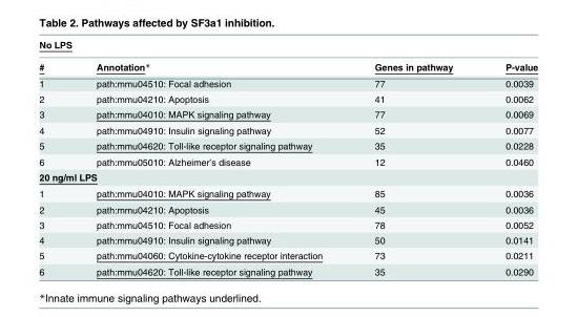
<table><thead><tr><td colspan="4">No LPS</td></tr><tr><td>#</td><td>Annotation*</td><td>Genes in pathway</td><td>P-value</td></tr></thead><tbody><tr><td>1</td><td>path:mmu04510: Focal adhesion</td><td>77</td><td>0.0039</td></tr><tr><td>2</td><td>path:mmu04210: Apoptosis</td><td>41</td><td>0.0062</td></tr><tr><td>3</td><td>path:mmu04010: MAPK signaling pathway</td><td>77</td><td>0.0069</td></tr><tr><td>4</td><td>path:mmu04910: Insulin signaling pathway</td><td>52</td><td>0.0077</td></tr><tr><td>5</td><td>path:mmu04620: Toll-like receptor signaling pathway</td><td>35</td><td>0.0228</td></tr><tr><td>6</td><td>path:mmu05010: Alzheimer’s disease</td><td>12</td><td>0.0460</td></tr><tr><td colspan="4">20 ng/ml LPS</td></tr><tr><td>1</td><td>path:mmu04010: MAPK signaling pathway</td><td>85</td><td>0.0036</td></tr><tr><td>2</td><td>path:mmu04210: Apoptosis</td><td>45</td><td>0.0036</td></tr><tr><td>3</td><td>path:mmu04510: Focal adhesion</td><td>78</td><td>0.0052</td></tr><tr><td>4</td><td>path:mmu04910: Insulin signaling pathway</td><td>50</td><td>0.0141</td></tr><tr><td>5</td><td>path:mmu04060: Cytokine-cytokine receptor interaction</td><td>73</td><td>0.0211</td></tr><tr><td>6</td><td>path:mmu04620: Toll-like receptor signaling pathway</td><td>35</td><td>0.0290</td></tr></tbody></table>